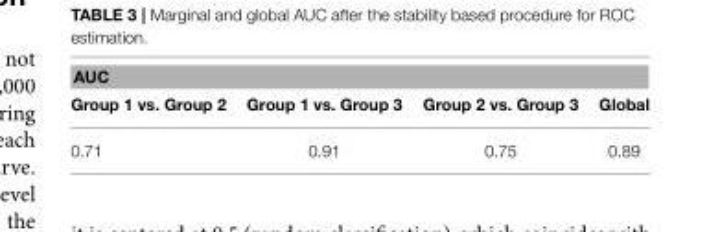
<table><thead><tr><td colspan="4">AUC</td></tr><tr><td>Group 1 vs. Group 2</td><td>Group 1 vs. Group 3</td><td>Group 2 vs. Group 3</td><td>Global</td></tr></thead><tbody><tr><td>0.71</td><td>0.91</td><td>0.75</td><td>0.89</td></tr></tbody></table>